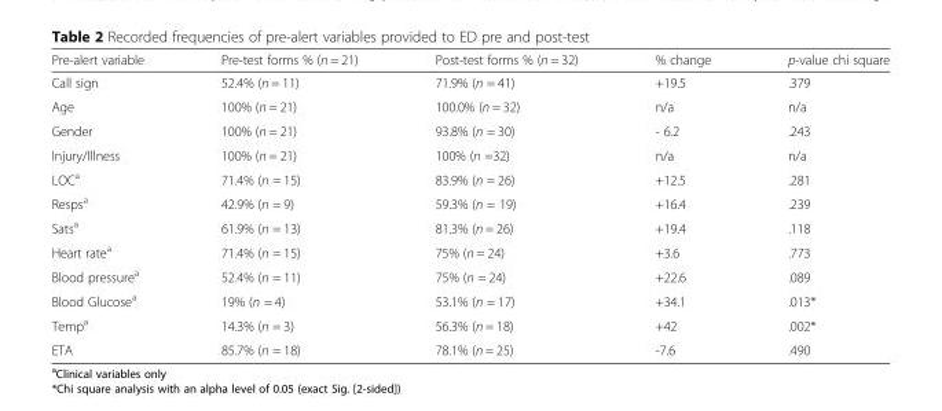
<table><thead><tr><td>Pre-alert variable</td><td>Pre-test forms % (n = 21)</td><td>Post-test forms % (n = 32)</td><td>% change</td><td>p-value chi square</td></tr></thead><tbody><tr><td>Call sign</td><td>52.4% (n = 11)</td><td>71.9% (n = 41)</td><td>+19.5</td><td>.379</td></tr><tr><td>Age</td><td>100% (n = 21)</td><td>100.0% (n = 32)</td><td>n/a</td><td>n/a</td></tr><tr><td>Gender</td><td>100% (n = 21)</td><td>93.8% (n = 30)</td><td>- 6.2</td><td>.243</td></tr><tr><td>Injury/Illness</td><td>100% (n = 21)</td><td>100% (n =32)</td><td>n/a</td><td>n/a</td></tr><tr><td>LOC<sup>a</sup></td><td>71.4% (n = 15)</td><td>83.9% (n = 26)</td><td>+12.5</td><td>.281</td></tr><tr><td>Resps<sup>a</sup></td><td>42.9% (n = 9)</td><td>59.3% (n = 19)</td><td>+16.4</td><td>.239</td></tr><tr><td>Sats<sup>a</sup></td><td>61.9% (n = 13)</td><td>81.3% (n = 26)</td><td>+19.4</td><td>.118</td></tr><tr><td>Heart rate<sup>a</sup></td><td>71.4% (n = 15)</td><td>75% (n = 24)</td><td>+3.6</td><td>.773</td></tr><tr><td>Blood pressure<sup>a</sup></td><td>52.4% (n = 11)</td><td>75% (n = 24)</td><td>+22.6</td><td>.089</td></tr><tr><td>Blood Glucose<sup>a</sup></td><td>19% (n = 4)</td><td>53.1% (n = 17)</td><td>+34.1</td><td>.013*</td></tr><tr><td>Temp<sup>a</sup></td><td>14.3% (n = 3)</td><td>56.3% (n = 18)</td><td>+42</td><td>.002*</td></tr><tr><td>ETA</td><td>85.7% (n = 18)</td><td>78.1% (n = 25)</td><td>-7.6</td><td>.490</td></tr></tbody></table>